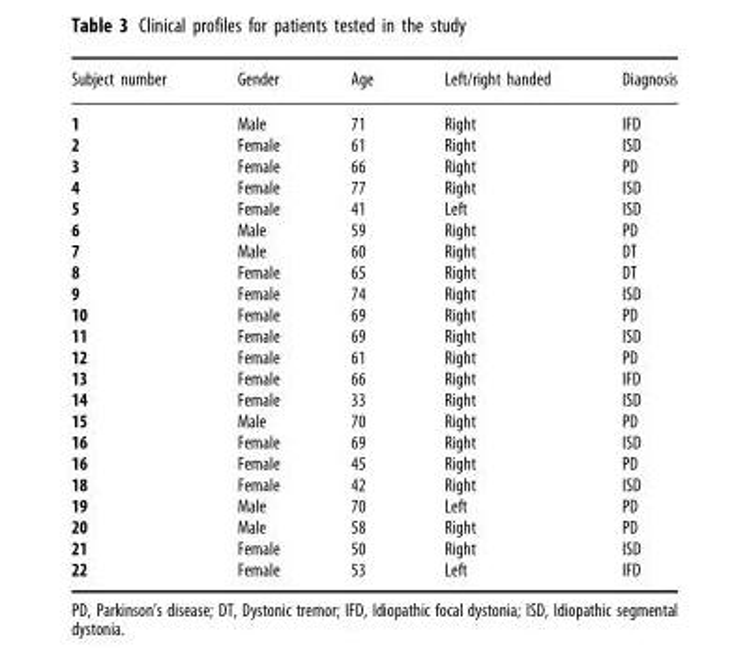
<table><thead><tr><td>Subject number</td><td>Gender</td><td>Age</td><td>Left/right handed</td><td>Diagnosis</td></tr></thead><tbody><tr><td>1</td><td>Male</td><td>71</td><td>Right</td><td>IFD</td></tr><tr><td>2</td><td>Female</td><td>61</td><td>Right</td><td>ISD</td></tr><tr><td>3</td><td>Female</td><td>66</td><td>Right</td><td>PD</td></tr><tr><td>4</td><td>Female</td><td>77</td><td>Right</td><td>ISD</td></tr><tr><td>5</td><td>Female</td><td>41</td><td>Left</td><td>ISD</td></tr><tr><td>6</td><td>Male</td><td>59</td><td>Right</td><td>PD</td></tr><tr><td>7</td><td>Male</td><td>60</td><td>Right</td><td>DT</td></tr><tr><td>8</td><td>Female</td><td>65</td><td>Right</td><td>DT</td></tr><tr><td>9</td><td>Female</td><td>74</td><td>Right</td><td>ISD</td></tr><tr><td>10</td><td>Female</td><td>69</td><td>Right</td><td>PD</td></tr><tr><td>11</td><td>Female</td><td>69</td><td>Right</td><td>ISD</td></tr><tr><td>12</td><td>Female</td><td>61</td><td>Right</td><td>PD</td></tr><tr><td>13</td><td>Female</td><td>66</td><td>Right</td><td>IFD</td></tr><tr><td>14</td><td>Female</td><td>33</td><td>Right</td><td>ISD</td></tr><tr><td>15</td><td>Male</td><td>70</td><td>Right</td><td>PD</td></tr><tr><td>16</td><td>Female</td><td>69</td><td>Right</td><td>ISD</td></tr><tr><td>16</td><td>Female</td><td>45</td><td>Right</td><td>PD</td></tr><tr><td>18</td><td>Female</td><td>42</td><td>Right</td><td>ISD</td></tr><tr><td>19</td><td>Male</td><td>70</td><td>Left</td><td>PD</td></tr><tr><td>20</td><td>Male</td><td>58</td><td>Right</td><td>PD</td></tr><tr><td>21</td><td>Female</td><td>50</td><td>Right</td><td>ISD</td></tr><tr><td>22</td><td>Female</td><td>53</td><td>Left</td><td>IFD</td></tr></tbody></table>